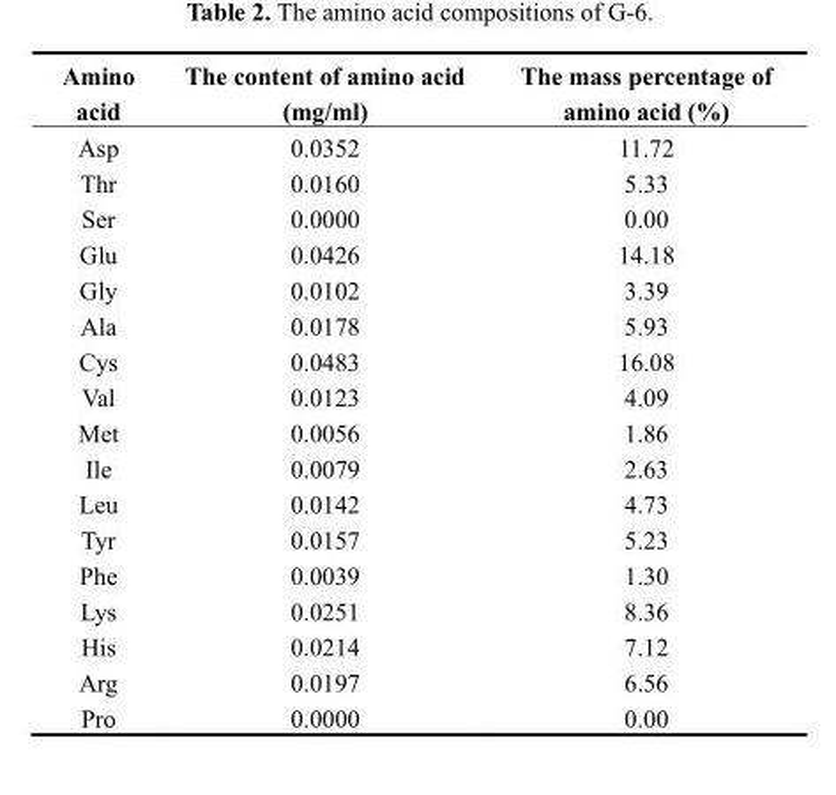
<table><thead><tr><td>Amino acid</td><td>The content of amino acid (mg/ml)</td><td>The mass percentage of amino acid (%)</td></tr></thead><tbody><tr><td>Asp</td><td>0.0352</td><td>11.72</td></tr><tr><td>Thr</td><td>0.0160</td><td>5.33</td></tr><tr><td>Ser</td><td>0.0000</td><td>0.00</td></tr><tr><td>Glu</td><td>0.0426</td><td>14.18</td></tr><tr><td>Gly</td><td>0.0102</td><td>3.39</td></tr><tr><td>Ala</td><td>0.0178</td><td>5.93</td></tr><tr><td>Cys</td><td>0.0483</td><td>16.08</td></tr><tr><td>Val</td><td>0.0123</td><td>4.09</td></tr><tr><td>Met</td><td>0.0056</td><td>1.86</td></tr><tr><td>Ile</td><td>0.0079</td><td>2.63</td></tr><tr><td>Leu</td><td>0.0142</td><td>4.73</td></tr><tr><td>Tyr</td><td>0.0157</td><td>5.23</td></tr><tr><td>Phe</td><td>0.0039</td><td>1.30</td></tr><tr><td>Lys</td><td>0.0251</td><td>8.36</td></tr><tr><td>His</td><td>0.0214</td><td>7.12</td></tr><tr><td>Arg</td><td>0.0197</td><td>6.56</td></tr><tr><td>Pro</td><td>0.0000</td><td>0.00</td></tr></tbody></table>